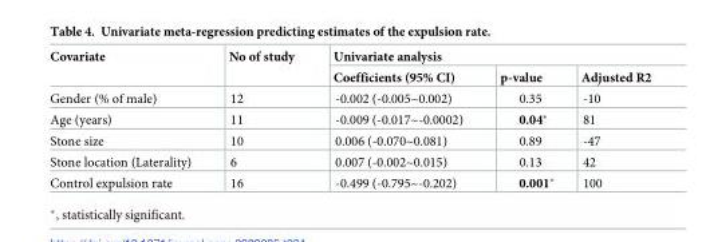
<table><thead><tr><td rowspan="2">Covariate</td><td rowspan="2">No of study</td><td colspan="3">Univariate analysis</td></tr><tr><td>Coefficients (95% CI)</td><td>p-value</td><td>Adjusted R2</td></tr></thead><tbody><tr><td>Gender (% of male)</td><td>12</td><td>-0.002 (-0.005~0.002)</td><td>0.35</td><td>-10</td></tr><tr><td>Age (years)</td><td>11</td><td>-0.009 (-0.017~-0.0002)</td><td>0.04*</td><td>81</td></tr><tr><td>Stone size</td><td>10</td><td>0.006 (-0.070~0.081)</td><td>0.89</td><td>-47</td></tr><tr><td>Stone location (Laterality)</td><td>6</td><td>0.007 (-0.002~0.015)</td><td>0.13</td><td>42</td></tr><tr><td>Control expulsion rate</td><td>16</td><td>-0.499 (-0.795~-0.202)</td><td>0.001*</td><td>100</td></tr></tbody></table>